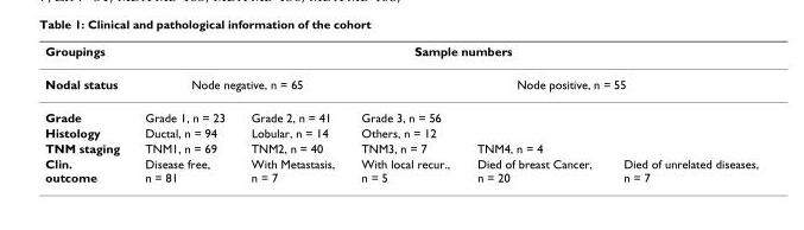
<table><thead><tr><td rowspan="3">Groupings Nodal status Grade</td><td colspan="5">Sample numbers</td></tr><tr><td colspan="2">Node negative, n = 65</td><td colspan="3">Node positive, n = 55</td></tr><tr><td>Grade 1, n = 23</td><td>Grade 2, n = 41</td><td>Grade 3, n = 56</td><td></td><td></td></tr></thead><tbody><tr><td>Histology</td><td>Ductal, n = 94</td><td>Lobular, n = 14</td><td>Others, n = 12</td><td></td><td></td></tr><tr><td>TNM staging</td><td>TNM1, n = 69</td><td>TNM2, n = 40</td><td>TNM3, n = 7</td><td>TNM4, n = 4</td><td></td></tr><tr><td>Clin. outcome</td><td>Disease free, n = 81</td><td>With Metastasis, n = 7</td><td>With local recur., n = 5</td><td>Died of breast Cancer, n = 20</td><td>Died of unrelated diseases, n = 7</td></tr></tbody></table>